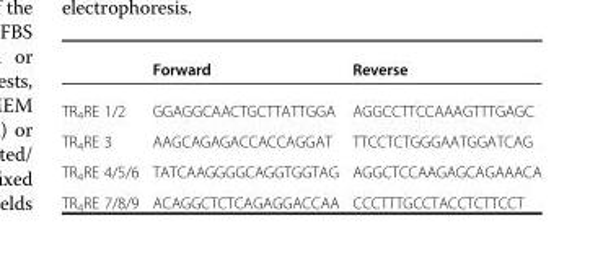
<table><thead><tr><td></td><td>Forward</td><td>Reverse</td></tr></thead><tbody><tr><td>TR<sub>4</sub>RE 1/2</td><td>GGAGGCAACTGCTTATTGGA</td><td>AGGCCTTCCAAAGTTTGAGC</td></tr><tr><td>TR<sub>4</sub>RE 3</td><td>AAGCAGAGACCACCAGGAT</td><td>TTCCTCTGGGAATGGATCAG</td></tr><tr><td>TR<sub>4</sub>RE 4/5/6</td><td>TATCAAGGGGCAGGTGGTAG</td><td>AGGCTCCAAGAGCAGAAACA</td></tr><tr><td>TR<sub>4</sub>RE 7/8/9</td><td>ACAGGCTCTCAGAGGACCAA</td><td>CCCTTTGCCTACCTCTTCCT</td></tr></tbody></table>